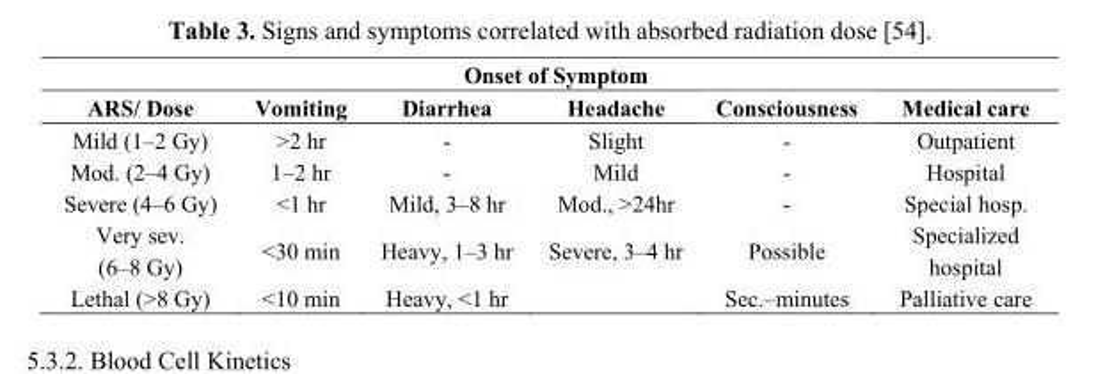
<table><thead><tr><td rowspan="2">ARS/ Dose</td><td colspan="4">Onset of Symptom</td><td rowspan="2">Medical care</td></tr><tr><td>Vomiting</td><td>Diarrhea</td><td>Headache</td><td>Consciousness</td></tr></thead><tbody><tr><td>Mild (1–2 Gy)</td><td>&gt;2 hr</td><td>-</td><td>Slight</td><td>-</td><td>Outpatient</td></tr><tr><td>Mod. (2–4 Gy)</td><td>1–2 hr</td><td>-</td><td>Mild</td><td>-</td><td>Hospital</td></tr><tr><td>Severe (4–6 Gy)</td><td>&lt;1 hr</td><td>Mild, 3–8 hr</td><td>Mod., &gt;24hr</td><td>-</td><td>Special hosp.</td></tr><tr><td>Very sev. (6–8 Gy)</td><td>&lt;30 min</td><td>Heavy, 1–3 hr</td><td>Severe, 3–4 hr</td><td>Possible</td><td>Specialized hospital</td></tr><tr><td>Lethal (&gt;8 Gy)</td><td>&lt;10 min</td><td>Heavy, &lt;1 hr</td><td></td><td>Sec.–minutes</td><td>Palliative care</td></tr></tbody></table>